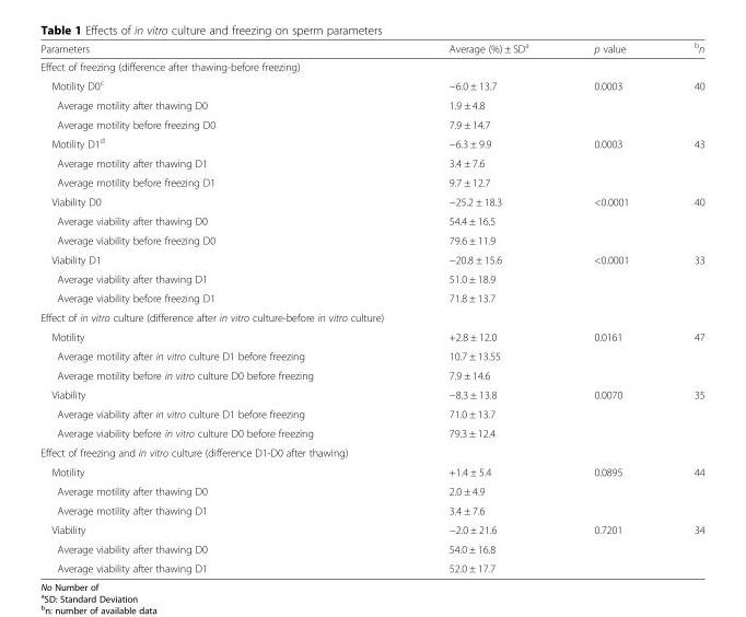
<table><thead><tr><td>Parameters</td><td>Average (%) ± SD<sup>a</sup></td><td>p value</td><td><sup>b</sup>n</td></tr></thead><tbody><tr><td colspan="4">Effect of freezing (difference after thawing-before freezing)</td></tr><tr><td>Motility D0<sup>c</sup></td><td>−6.0 ± 13.7</td><td>0.0003</td><td>40</td></tr><tr><td>Average motility after thawing D0</td><td>1.9 ± 4.8</td><td></td><td></td></tr><tr><td>Average motility before freezing D0</td><td>7.9 ± 14.7</td><td></td><td></td></tr><tr><td>Motility D1<sup>d</sup></td><td>−6.3 ± 9.9</td><td>0.0003</td><td>43</td></tr><tr><td>Average motility after thawing D1</td><td>3.4 ± 7.6</td><td></td><td></td></tr><tr><td>Average motility before freezing D1</td><td>9.7 ± 12.7</td><td></td><td></td></tr><tr><td>Viability D0</td><td>−25.2 ± 18.3</td><td>&lt;0.0001</td><td>40</td></tr><tr><td>Average viability after thawing D0</td><td>54.4 ± 16.5</td><td></td><td></td></tr><tr><td>Average viability before freezing D0</td><td>79.6 ± 11.9</td><td></td><td></td></tr><tr><td>Viability D1</td><td>−20.8 ± 15.6</td><td>&lt;0.0001</td><td>33</td></tr><tr><td>Average viability after thawing D1</td><td>51.0 ± 18.9</td><td></td><td></td></tr><tr><td>Average viability before freezing D1</td><td>71.8 ± 13.7</td><td></td><td></td></tr><tr><td colspan="4">Effect of in vitro culture (difference after in vitro culture-before in vitro culture)</td></tr><tr><td>Motility</td><td>+2.8 ± 12.0</td><td>0.0161</td><td>47</td></tr><tr><td>Average motility after in vitro culture D1 before freezing</td><td>10.7 ± 13.55</td><td></td><td></td></tr><tr><td>Average motility before in vitro culture D0 before freezing</td><td>7.9 ± 14.6</td><td></td><td></td></tr><tr><td>Viability</td><td>−8.3 ± 13.8</td><td>0.0070</td><td>35</td></tr><tr><td>Average viability after in vitro culture D1 before freezing</td><td>71.0 ± 13.7</td><td></td><td></td></tr><tr><td>Average viability before in vitro culture D0 before freezing</td><td>79.3 ± 12.4</td><td></td><td></td></tr><tr><td colspan="4">Effect of freezing and in vitro culture (difference D1-D0 after thawing)</td></tr><tr><td>Motility</td><td>+1.4 ± 5.4</td><td>0.0895</td><td>44</td></tr><tr><td>Average motility after thawing D0</td><td>2.0 ± 4.9</td><td></td><td></td></tr><tr><td>Average motility after thawing D1</td><td>3.4 ± 7.6</td><td></td><td></td></tr><tr><td>Viability</td><td>−2.0 ± 21.6</td><td>0.7201</td><td>34</td></tr><tr><td>Average viability after thawing D0</td><td>54.0 ± 16.8</td><td></td><td></td></tr><tr><td>Average viability after thawing D1</td><td>52.0 ± 17.7</td><td></td><td></td></tr></tbody></table>